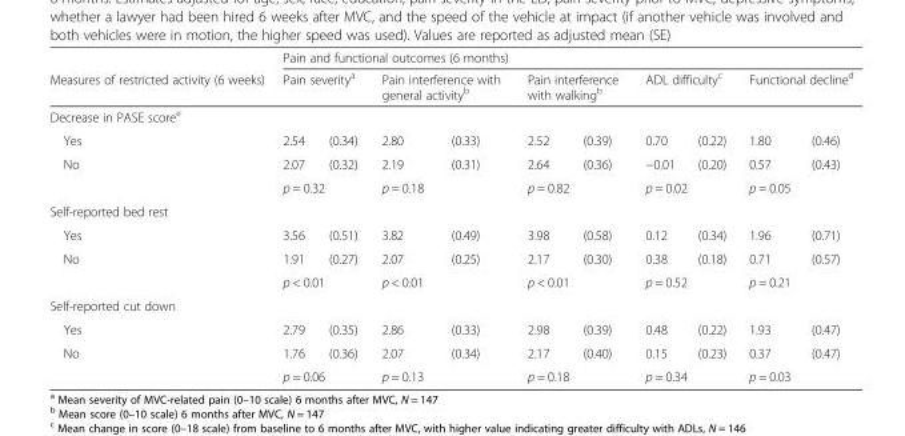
<table><thead><tr><td rowspan="2">Measures of restricted activity (6 weeks)</td><td colspan="10">Pain and functional outcomes (6 months)</td></tr><tr><td colspan="2">Pain severity<sup>a</sup></td><td colspan="2">Pain interference with general activity<sup>b</sup></td><td colspan="2">Pain interference with walking<sup>b</sup></td><td colspan="2">ADL difficulty<sup>c</sup></td><td colspan="2">Functional decline<sup>d</sup></td></tr><tr><td colspan="11">Decrease in PASE score<sup>e</sup></td></tr><tr><td>Yes</td><td>2.54</td><td>(0.34)</td><td>2.80</td><td>(0.33)</td><td>2.52</td><td>(0.39)</td><td>0.70</td><td>(0.22)</td><td>1.80</td><td>(0.46)</td></tr></thead><tbody><tr><td rowspan="2">No</td><td>2.07</td><td>(0.32)</td><td>2.19</td><td>(0.31)</td><td>2.64</td><td>(0.36)</td><td>−0.01</td><td>(0.20)</td><td>0.57</td><td>(0.43)</td></tr><tr><td colspan="2">p = 0.32</td><td colspan="2">p = 0.18</td><td colspan="2">p = 0.82</td><td colspan="2">p = 0.02</td><td colspan="2">p = 0.05</td></tr><tr><td colspan="11">Self-reported bed rest</td></tr><tr><td>Yes</td><td>3.56</td><td>(0.51)</td><td>3.82</td><td>(0.49)</td><td>3.98</td><td>(0.58)</td><td>0.12</td><td>(0.34)</td><td>1.96</td><td>(0.71)</td></tr><tr><td rowspan="2">No</td><td>1.91</td><td>(0.27)</td><td>2.07</td><td>(0.25)</td><td>2.17</td><td>(0.30)</td><td>0.38</td><td>(0.18)</td><td>0.71</td><td>(0.57)</td></tr><tr><td colspan="2">p &lt; 0.01</td><td colspan="2">p &lt; 0.01</td><td colspan="2">p &lt; 0.01</td><td colspan="2">p = 0.52</td><td colspan="2">p = 0.21</td></tr><tr><td colspan="11">Self-reported cut down</td></tr><tr><td>Yes</td><td>2.79</td><td>(0.35)</td><td>2.86</td><td>(0.33)</td><td>2.98</td><td>(0.39)</td><td>0.48</td><td>(0.22)</td><td>1.93</td><td>(0.47)</td></tr><tr><td rowspan="2">No</td><td>1.76</td><td>(0.36)</td><td>2.07</td><td>(0.34)</td><td>2.17</td><td>(0.40)</td><td>0.15</td><td>(0.23)</td><td>0.37</td><td>(0.47)</td></tr><tr><td colspan="2">p = 0.06</td><td colspan="2">p = 0.13</td><td colspan="2">p = 0.18</td><td colspan="2">p = 0.34</td><td colspan="2">p = 0.03</td></tr></tbody></table>